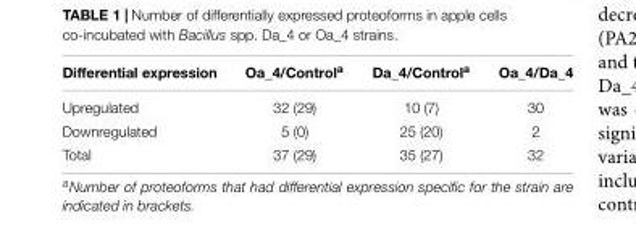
<table><thead><tr><td>Differential expression</td><td>Oa_4/Control<sup>a</sup></td><td>Da_4/Control<sup>a</sup></td><td>Oa_4/Da_4</td></tr></thead><tbody><tr><td>Upregulated</td><td>32 (29)</td><td>10 (7)</td><td>30</td></tr><tr><td>Downregulated</td><td>5 (0)</td><td>25 (20)</td><td>2</td></tr><tr><td>Total</td><td>37 (29)</td><td>35 (27)</td><td>32</td></tr></tbody></table>